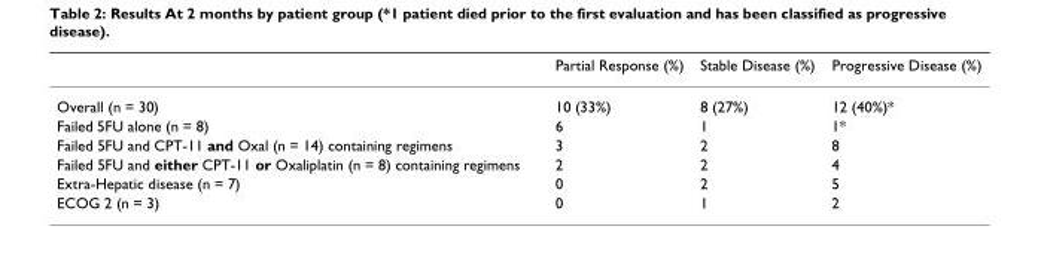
<table><thead><tr><td></td><td>Partial Response (%)</td><td>Stable Disease (%)</td><td>Progressive Disease (%)</td></tr></thead><tbody><tr><td>Overall (n = 30)</td><td>10 (33%)</td><td>8 (27%)</td><td>12 (40%)*</td></tr><tr><td>Failed 5FU alone (n = 8)</td><td>6</td><td>1</td><td>1*</td></tr><tr><td>Failed 5FU and CPT-11 and Oxal (n = 14) containing regimens</td><td>3</td><td>2</td><td>8</td></tr><tr><td>Failed 5FU and either CPT-11 or Oxaliplatin (n = 8) containing regimens</td><td>2</td><td>2</td><td>4</td></tr><tr><td>Extra-Hepatic disease (n = 7)</td><td>0</td><td>2</td><td>5</td></tr><tr><td>ECOG 2 (n = 3)</td><td>0</td><td>1</td><td>2</td></tr></tbody></table>